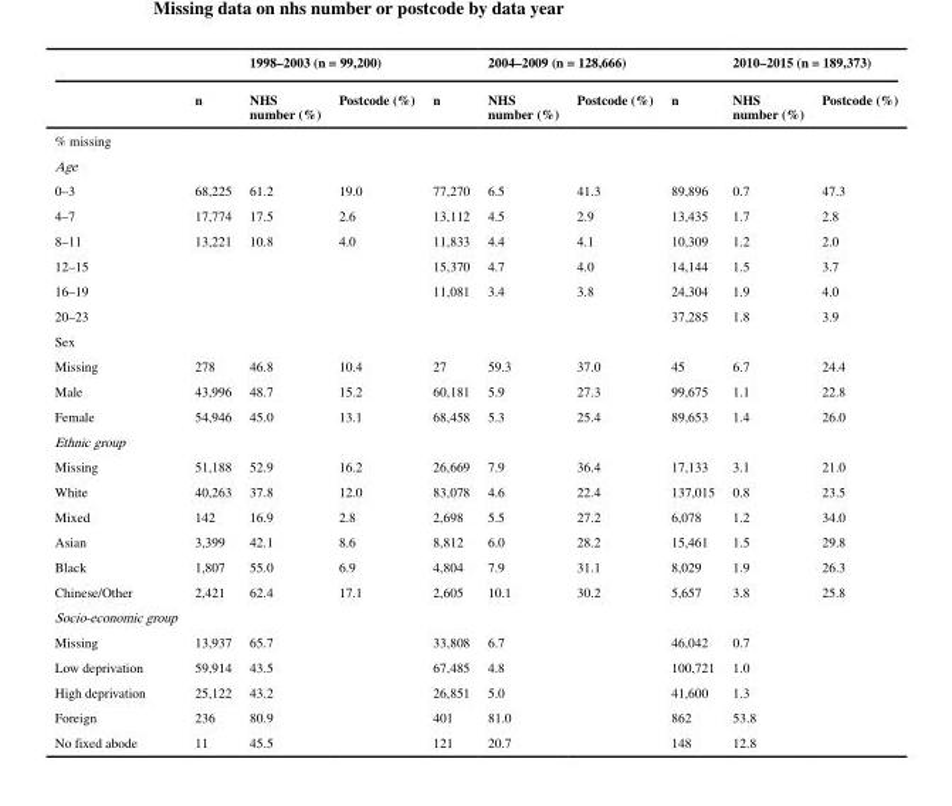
<table><thead><tr><td rowspan="2"></td><td rowspan="2">n</td><td colspan="2">1998–2003 (n = 99,200)</td><td rowspan="2">n</td><td colspan="2">2004–2009 (n = 128,666)</td><td rowspan="2">n</td><td colspan="2">2010–2015 (n = 189,373)</td></tr><tr><td>NHS number (%)</td><td>Postcode (%)</td><td>NHS number (%)</td><td>Postcode (%)</td><td>NHS number (%)</td><td>Postcode (%)</td></tr></thead><tbody><tr><td colspan="10">% missing</td></tr><tr><td colspan="10">Age</td></tr><tr><td>0–3</td><td>68,225</td><td>61.2</td><td>19.0</td><td>77,270</td><td>6.5</td><td>41.3</td><td>89,896</td><td>0.7</td><td>47.3</td></tr><tr><td>4–7</td><td>17,774</td><td>17.5</td><td>2.6</td><td>13,112</td><td>4.5</td><td>2.9</td><td>13,435</td><td>1.7</td><td>2.8</td></tr><tr><td>8–11</td><td>13,221</td><td>10.8</td><td>4.0</td><td>11,833</td><td>4.4</td><td>4.1</td><td>10,309</td><td>1.2</td><td>2.0</td></tr><tr><td>12–15</td><td></td><td></td><td></td><td>15,370</td><td>4.7</td><td>4.0</td><td>14,144</td><td>1.5</td><td>3.7</td></tr><tr><td>16–19</td><td></td><td></td><td></td><td>11,081</td><td>3.4</td><td>3.8</td><td>24,304</td><td>1.9</td><td>4.0</td></tr><tr><td>20–23</td><td></td><td></td><td></td><td></td><td></td><td></td><td>37,285</td><td>1.8</td><td>3.9</td></tr><tr><td colspan="10">Sex</td></tr><tr><td>Missing</td><td>278</td><td>46.8</td><td>10.4</td><td>27</td><td>59.3</td><td>37.0</td><td>45</td><td>6.7</td><td>24.4</td></tr><tr><td>Male</td><td>43,996</td><td>48.7</td><td>15.2</td><td>60,181</td><td>5.9</td><td>27.3</td><td>99,675</td><td>1.1</td><td>22.8</td></tr><tr><td>Female</td><td>54,946</td><td>45.0</td><td>13.1</td><td>68,458</td><td>5.3</td><td>25.4</td><td>89,653</td><td>1.4</td><td>26.0</td></tr><tr><td colspan="10">Ethnic group</td></tr><tr><td>Missing</td><td>51,188</td><td>52.9</td><td>16.2</td><td>26,669</td><td>7.9</td><td>36.4</td><td>17,133</td><td>3.1</td><td>21.0</td></tr><tr><td>White</td><td>40,263</td><td>37.8</td><td>12.0</td><td>83,078</td><td>4.6</td><td>22.4</td><td>137,015</td><td>0.8</td><td>23.5</td></tr><tr><td>Mixed</td><td>142</td><td>16.9</td><td>2.8</td><td>2,698</td><td>5.5</td><td>27.2</td><td>6,078</td><td>1.2</td><td>34.0</td></tr><tr><td>Asian</td><td>3,399</td><td>42.1</td><td>8.6</td><td>8,812</td><td>6.0</td><td>28.2</td><td>15,461</td><td>1.5</td><td>29.8</td></tr><tr><td>Black</td><td>1,807</td><td>55.0</td><td>6.9</td><td>4,804</td><td>7.9</td><td>31.1</td><td>8,029</td><td>1.9</td><td>26.3</td></tr><tr><td>Chinese/Other</td><td>2,421</td><td>62.4</td><td>17.1</td><td>2,605</td><td>10.1</td><td>30.2</td><td>5,657</td><td>3.8</td><td>25.8</td></tr><tr><td colspan="10">Socio-economic group</td></tr><tr><td>Missing</td><td>13,937</td><td>65.7</td><td></td><td>33,808</td><td>6.7</td><td></td><td>46,042</td><td>0.7</td><td></td></tr><tr><td>Low deprivation</td><td>59,914</td><td>43.5</td><td></td><td>67,485</td><td>4.8</td><td></td><td>100,721</td><td>1.0</td><td></td></tr><tr><td>High deprivation</td><td>25,122</td><td>43.2</td><td></td><td>26,851</td><td>5.0</td><td></td><td>41,600</td><td>1.3</td><td></td></tr><tr><td>Foreign</td><td>236</td><td>80.9</td><td></td><td>401</td><td>81.0</td><td></td><td>862</td><td>53.8</td><td></td></tr><tr><td>No fixed abode</td><td>11</td><td>45.5</td><td></td><td>121</td><td>20.7</td><td></td><td>148</td><td>12.8</td><td></td></tr></tbody></table>